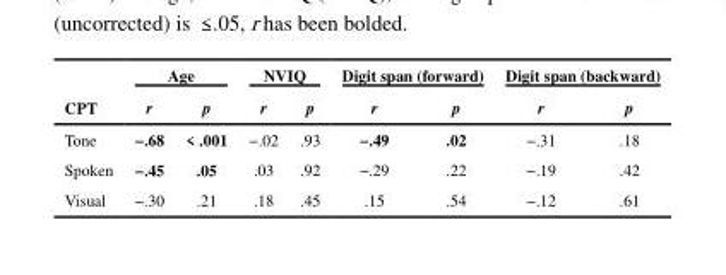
<table><thead><tr><td rowspan="2">CPT</td><td colspan="2">Age</td><td colspan="2">NVIQ</td><td colspan="2">Digit span (forward)</td><td colspan="2">Digit span (backward)</td></tr><tr><td>r</td><td>p</td><td>r</td><td>p</td><td>r</td><td>p</td><td>r</td><td>p</td></tr></thead><tbody><tr><td>Tone</td><td>−.68</td><td>&lt; .001</td><td>−.02</td><td>.93</td><td>−.49</td><td>.02</td><td>−.31</td><td>.18</td></tr><tr><td>Spoken</td><td>−.45</td><td>.05</td><td>.03</td><td>.92</td><td>−.29</td><td>.22</td><td>−.19</td><td>.42</td></tr><tr><td>Visual</td><td>−.30</td><td>.21</td><td>.18</td><td>.45</td><td>.15</td><td>.54</td><td>−.12</td><td>.61</td></tr></tbody></table>